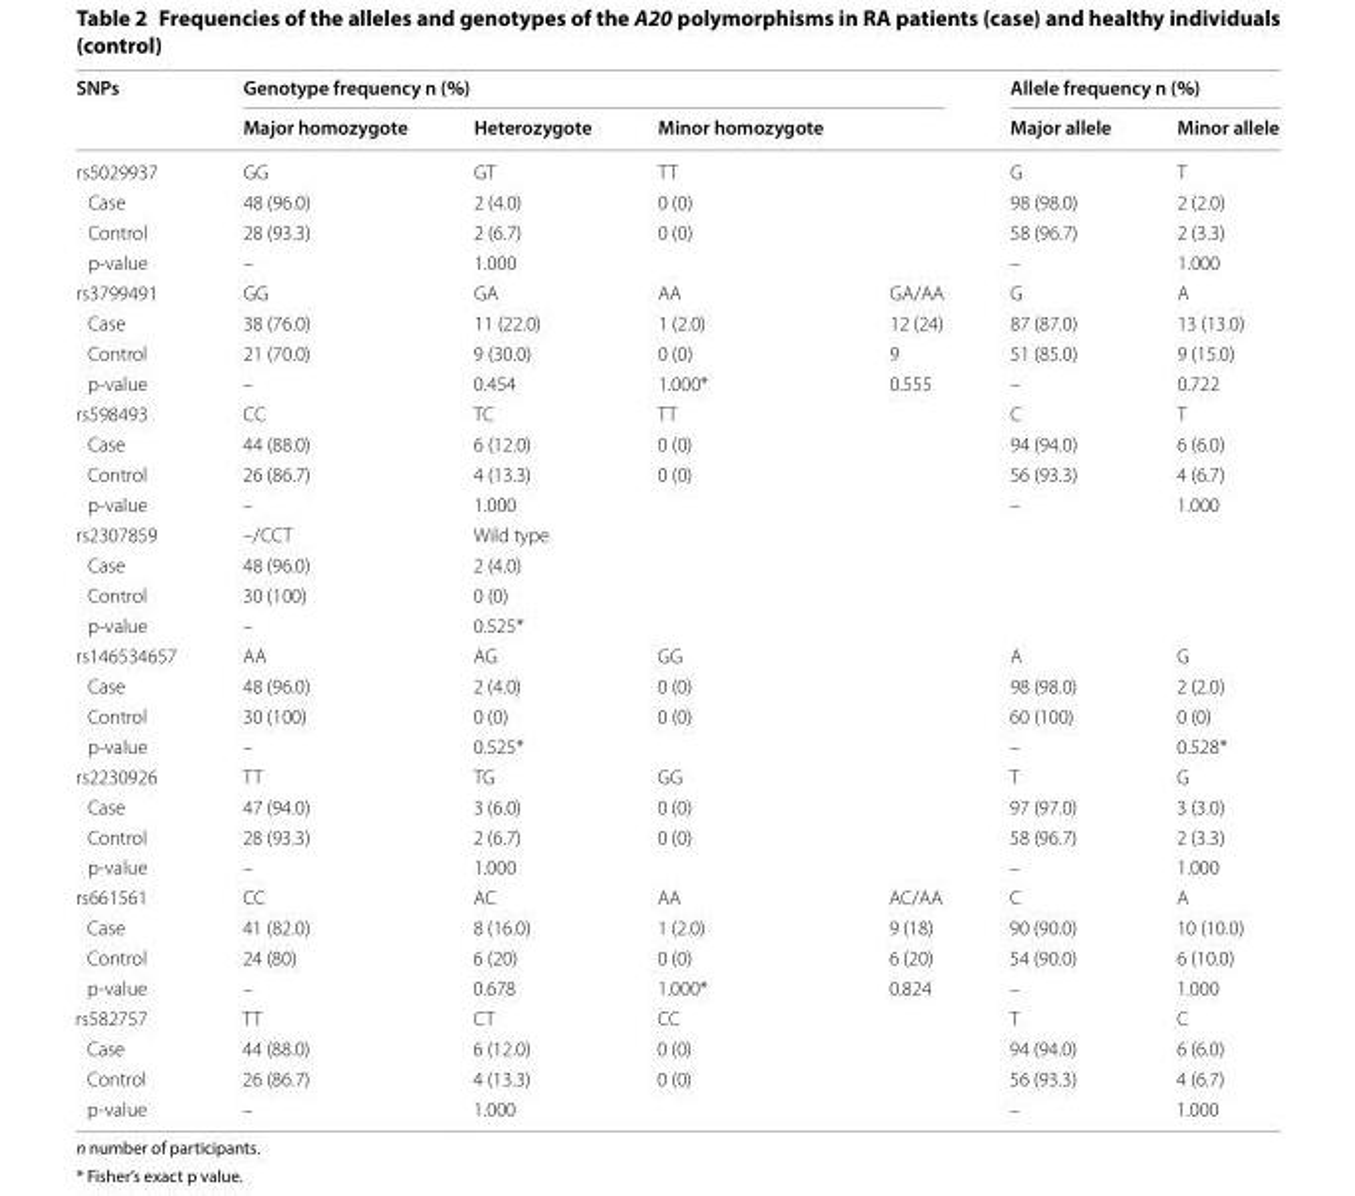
<table><thead><tr><td rowspan="2">SNPs</td><td colspan="4">Genotype frequency n (%)</td><td colspan="2">Allele frequency n (%)</td></tr><tr><td>Major homozygote</td><td>Heterozygote</td><td>Minor homozygote</td><td></td><td>Major allele</td><td>Minor allele</td></tr></thead><tbody><tr><td>rs5029937</td><td>GG</td><td>GT</td><td>TT</td><td></td><td>G</td><td>T</td></tr><tr><td>Case</td><td>48 (96.0)</td><td>2 (4.0)</td><td>0 (0)</td><td></td><td>98 (98.0)</td><td>2 (2.0)</td></tr><tr><td>Control</td><td>28 (93.3)</td><td>2 (6.7)</td><td>0 (0)</td><td></td><td>58 (96.7)</td><td>2 (3.3)</td></tr><tr><td>p-value</td><td>–</td><td>1.000</td><td></td><td></td><td>–</td><td>1.000</td></tr><tr><td>rs3799491</td><td>GG</td><td>GA</td><td>AA</td><td>GA/AA</td><td>G</td><td>A</td></tr><tr><td>Case</td><td>38 (76.0)</td><td>11 (22.0)</td><td>1 (2.0)</td><td>12 (24)</td><td>87 (87.0)</td><td>13 (13.0)</td></tr><tr><td>Control</td><td>21 (70.0)</td><td>9 (30.0)</td><td>0 (0)</td><td>9</td><td>51 (85.0)</td><td>9 (15.0)</td></tr><tr><td>p-value</td><td>–</td><td>0.454</td><td>1.000*</td><td>0.555</td><td>–</td><td>0.722</td></tr><tr><td>rs598493</td><td>CC</td><td>TC</td><td>TT</td><td></td><td>C</td><td>T</td></tr><tr><td>Case</td><td>44 (88.0)</td><td>6 (12.0)</td><td>0 (0)</td><td></td><td>94 (94.0)</td><td>6 (6.0)</td></tr><tr><td>Control</td><td>26 (86.7)</td><td>4 (13.3)</td><td>0 (0)</td><td></td><td>56 (93.3)</td><td>4 (6.7)</td></tr><tr><td>p-value</td><td>–</td><td>1.000</td><td></td><td></td><td>–</td><td>1.000</td></tr><tr><td>rs2307859</td><td>–/CCT</td><td>Wild type</td><td></td><td></td><td></td><td></td></tr><tr><td>Case</td><td>48 (96.0)</td><td>2 (4.0)</td><td></td><td></td><td></td><td></td></tr><tr><td>Control</td><td>30 (100)</td><td>0 (0)</td><td></td><td></td><td></td><td></td></tr><tr><td>p-value</td><td>–</td><td>0.525*</td><td></td><td></td><td></td><td></td></tr><tr><td>rs146534657</td><td>AA</td><td>AG</td><td>GG</td><td></td><td>A</td><td>G</td></tr><tr><td>Case</td><td>48 (96.0)</td><td>2 (4.0)</td><td>0 (0)</td><td></td><td>98 (98.0)</td><td>2 (2.0)</td></tr><tr><td>Control</td><td>30 (100)</td><td>0 (0)</td><td>0 (0)</td><td></td><td>60 (100)</td><td>0 (0)</td></tr><tr><td>p-value</td><td>–</td><td>0.525*</td><td></td><td></td><td>–</td><td>0.528*</td></tr><tr><td>rs2230926</td><td>TT</td><td>TG</td><td>GG</td><td></td><td>T</td><td>G</td></tr><tr><td>Case</td><td>47 (94.0)</td><td>3 (6.0)</td><td>0 (0)</td><td></td><td>97 (97.0)</td><td>3 (3.0)</td></tr><tr><td>Control</td><td>28 (93.3)</td><td>2 (6.7)</td><td>0 (0)</td><td></td><td>58 (96.7)</td><td>2 (3.3)</td></tr><tr><td>p-value</td><td>–</td><td>1.000</td><td></td><td></td><td>–</td><td>1.000</td></tr><tr><td>rs661561</td><td>CC</td><td>AC</td><td>AA</td><td>AC/AA</td><td>C</td><td>A</td></tr><tr><td>Case</td><td>41 (82.0)</td><td>8 (16.0)</td><td>1 (2.0)</td><td>9 (18)</td><td>90 (90.0)</td><td>10 (10.0)</td></tr><tr><td>Control</td><td>24 (80)</td><td>6 (20)</td><td>0 (0)</td><td>6 (20)</td><td>54 (90.0)</td><td>6 (10.0)</td></tr><tr><td>p-value</td><td>–</td><td>0.678</td><td>1.000*</td><td>0.824</td><td>–</td><td>1.000</td></tr><tr><td>rs582757</td><td>TT</td><td>CT</td><td>CC</td><td></td><td>T</td><td>C</td></tr><tr><td>Case</td><td>44 (88.0)</td><td>6 (12.0)</td><td>0 (0)</td><td></td><td>94 (94.0)</td><td>6 (6.0)</td></tr><tr><td>Control</td><td>26 (86.7)</td><td>4 (13.3)</td><td>0 (0)</td><td></td><td>56 (93.3)</td><td>4 (6.7)</td></tr><tr><td>p-value</td><td>–</td><td>1.000</td><td></td><td></td><td>–</td><td>1.000</td></tr></tbody></table>